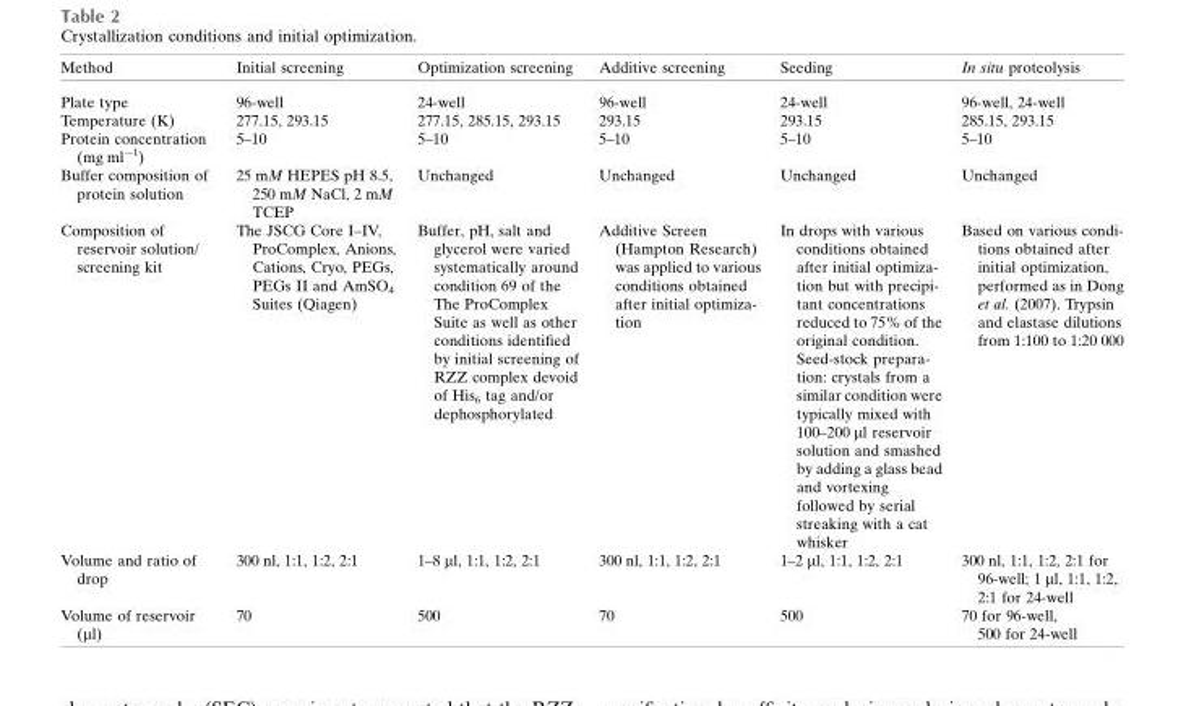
<table><thead><tr><td>Method</td><td>Initial screening</td><td>Optimization screening</td><td>Additive screening</td><td>Seeding</td><td>In situ proteolysis</td></tr></thead><tbody><tr><td>Plate type</td><td>96-well</td><td>24-well</td><td>96-well</td><td>24-well</td><td>96-well, 24-well</td></tr><tr><td>Temperature (K)</td><td>277.15, 293.15</td><td>277.15, 285.15, 293.15</td><td>293.15</td><td>293.15</td><td>285.15, 293.15</td></tr><tr><td>Protein concentration (mg ml�1)</td><td>5–10</td><td>5–10</td><td>5–10</td><td>5–10</td><td>5–10</td></tr><tr><td>Buffer composition of protein solution</td><td>25 mM HEPES pH 8.5, 250 mM NaCl, 2 mM TCEP</td><td>Unchanged</td><td>Unchanged</td><td>Unchanged</td><td>Unchanged</td></tr><tr><td>Composition of reservoir solution/ screening kit</td><td>The JSCG Core I–IV, ProComplex, Anions, Cations, Cryo, PEGs, PEGs II and AmSO4 Suites (Qiagen)</td><td>Buffer, pH, salt and glycerol were varied systematically around condition 69 of the The ProComplex Suite as well as other conditions identified by initial screening of RZZ complex devoid of His<sub>6</sub> tag and/or dephosphorylated</td><td>Additive Screen (Hampton Research) was applied to various conditions obtained after initial optimiza- tion</td><td>In drops with various conditions obtained after initial optimiza- tion but with precipi- tant concentrations reduced to 75% of the original condition. Seed-stock prepara- tion: crystals from a similar condition were typically mixed with 100–200 ml reservoir solution and smashed by adding a glass bead and vortexing followed by serial streaking with a cat whisker</td><td>Based on various condi- tions obtained after initial optimization, performed as in Dong et al. (2007). Trypsin and elastase dilutions from 1:100 to 1:20 000</td></tr><tr><td>Volume and ratio of drop</td><td>300 nl, 1:1, 1:2, 2:1</td><td>1–8 ml, 1:1, 1:2, 2:1</td><td>300 nl, 1:1, 1:2, 2:1</td><td>1–2 ml, 1:1, 1:2, 2:1</td><td>300 nl, 1:1, 1:2, 2:1 for 96-well; 1 ml, 1:1, 1:2, 2:1 for 24-well</td></tr><tr><td>Volume of reservoir (ml)</td><td>70</td><td>500</td><td>70</td><td>500</td><td>70 for 96-well, 500 for 24-well</td></tr></tbody></table>